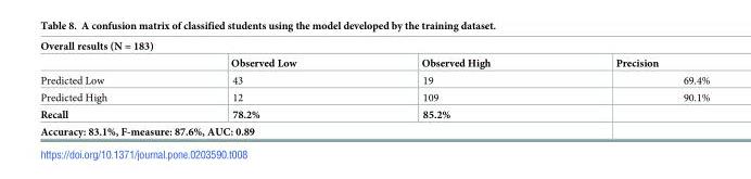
<table><thead><tr><td colspan="4">Overall results (N = 183)</td></tr><tr><td></td><td>Observed Low</td><td>Observed High</td><td>Precision</td></tr></thead><tbody><tr><td>Predicted Low</td><td>43</td><td>19</td><td>69.4%</td></tr><tr><td>Predicted High</td><td>12</td><td>109</td><td>90.1%</td></tr><tr><td>Recall</td><td>78.2%</td><td>85.2%</td><td></td></tr><tr><td colspan="3">Accuracy: 83.1%, F-measure: 87.6%, AUC: 0.89</td><td></td></tr></tbody></table>